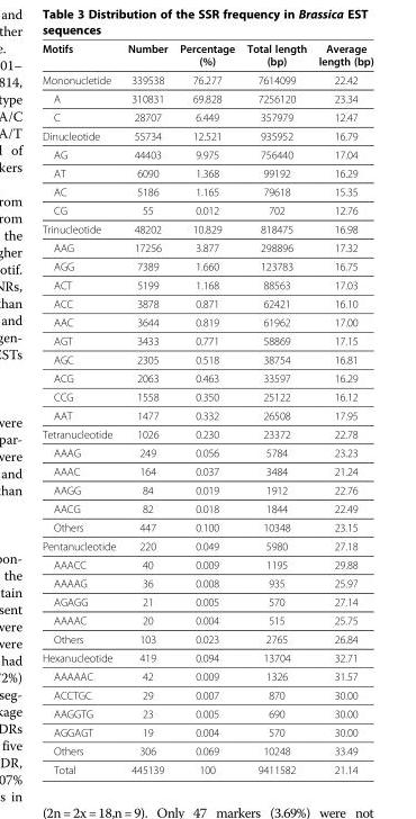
<table><thead><tr><td>Motifs</td><td>Number</td><td>Percentage (%)</td><td>Total length (bp)</td><td>Average length (bp)</td></tr></thead><tbody><tr><td>Mononucletide</td><td>339538</td><td>76.277</td><td>7614099</td><td>22.42</td></tr><tr><td>A</td><td>310831</td><td>69.828</td><td>7256120</td><td>23.34</td></tr><tr><td>C</td><td>28707</td><td>6.449</td><td>357979</td><td>12.47</td></tr><tr><td>Dinucleotide</td><td>55734</td><td>12.521</td><td>935952</td><td>16.79</td></tr><tr><td>AG</td><td>44403</td><td>9.975</td><td>756440</td><td>17.04</td></tr><tr><td>AT</td><td>6090</td><td>1.368</td><td>99192</td><td>16.29</td></tr><tr><td>AC</td><td>5186</td><td>1.165</td><td>79618</td><td>15.35</td></tr><tr><td>CG</td><td>55</td><td>0.012</td><td>702</td><td>12.76</td></tr><tr><td>Trinucleotide</td><td>48202</td><td>10.829</td><td>818475</td><td>16.98</td></tr><tr><td>AAG</td><td>17256</td><td>3.877</td><td>298896</td><td>17.32</td></tr><tr><td>AGG</td><td>7389</td><td>1.660</td><td>123783</td><td>16.75</td></tr><tr><td>ACT</td><td>5199</td><td>1.168</td><td>88563</td><td>17.03</td></tr><tr><td>ACC</td><td>3878</td><td>0.871</td><td>62421</td><td>16.10</td></tr><tr><td>AAC</td><td>3644</td><td>0.819</td><td>61962</td><td>17.00</td></tr><tr><td>AGT</td><td>3433</td><td>0.771</td><td>58869</td><td>17.15</td></tr><tr><td>AGC</td><td>2305</td><td>0.518</td><td>38754</td><td>16.81</td></tr><tr><td>ACG</td><td>2063</td><td>0.463</td><td>33597</td><td>16.29</td></tr><tr><td>CCG</td><td>1558</td><td>0.350</td><td>25122</td><td>16.12</td></tr><tr><td>AAT</td><td>1477</td><td>0.332</td><td>26508</td><td>17.95</td></tr><tr><td>Tetranucleotide</td><td>1026</td><td>0.230</td><td>23372</td><td>22.78</td></tr><tr><td>AAAG</td><td>249</td><td>0.056</td><td>5784</td><td>23.23</td></tr><tr><td>AAAC</td><td>164</td><td>0.037</td><td>3484</td><td>21.24</td></tr><tr><td>AAGG</td><td>84</td><td>0.019</td><td>1912</td><td>22.76</td></tr><tr><td>AACG</td><td>82</td><td>0.018</td><td>1844</td><td>22.49</td></tr><tr><td>Others</td><td>447</td><td>0.100</td><td>10348</td><td>23.15</td></tr><tr><td>Pentanucleotide</td><td>220</td><td>0.049</td><td>5980</td><td>27.18</td></tr><tr><td>AAACC</td><td>40</td><td>0.009</td><td>1195</td><td>29.88</td></tr><tr><td>AAAAG</td><td>36</td><td>0.008</td><td>935</td><td>25.97</td></tr><tr><td>AGAGG</td><td>21</td><td>0.005</td><td>570</td><td>27.14</td></tr><tr><td>AAAAC</td><td>20</td><td>0.004</td><td>515</td><td>25.75</td></tr><tr><td>Others</td><td>103</td><td>0.023</td><td>2765</td><td>26.84</td></tr><tr><td>Hexanucleotide</td><td>419</td><td>0.094</td><td>13704</td><td>32.71</td></tr><tr><td>AAAAAC</td><td>42</td><td>0.009</td><td>1326</td><td>31.57</td></tr><tr><td>ACCTGC</td><td>29</td><td>0.007</td><td>870</td><td>30.00</td></tr><tr><td>AAGGTG</td><td>23</td><td>0.005</td><td>690</td><td>30.00</td></tr><tr><td>AGGAGT</td><td>19</td><td>0.004</td><td>570</td><td>30.00</td></tr><tr><td>Others</td><td>306</td><td>0.069</td><td>10248</td><td>33.49</td></tr><tr><td>Total</td><td>445139</td><td>100</td><td>9411582</td><td>21.14</td></tr></tbody></table>